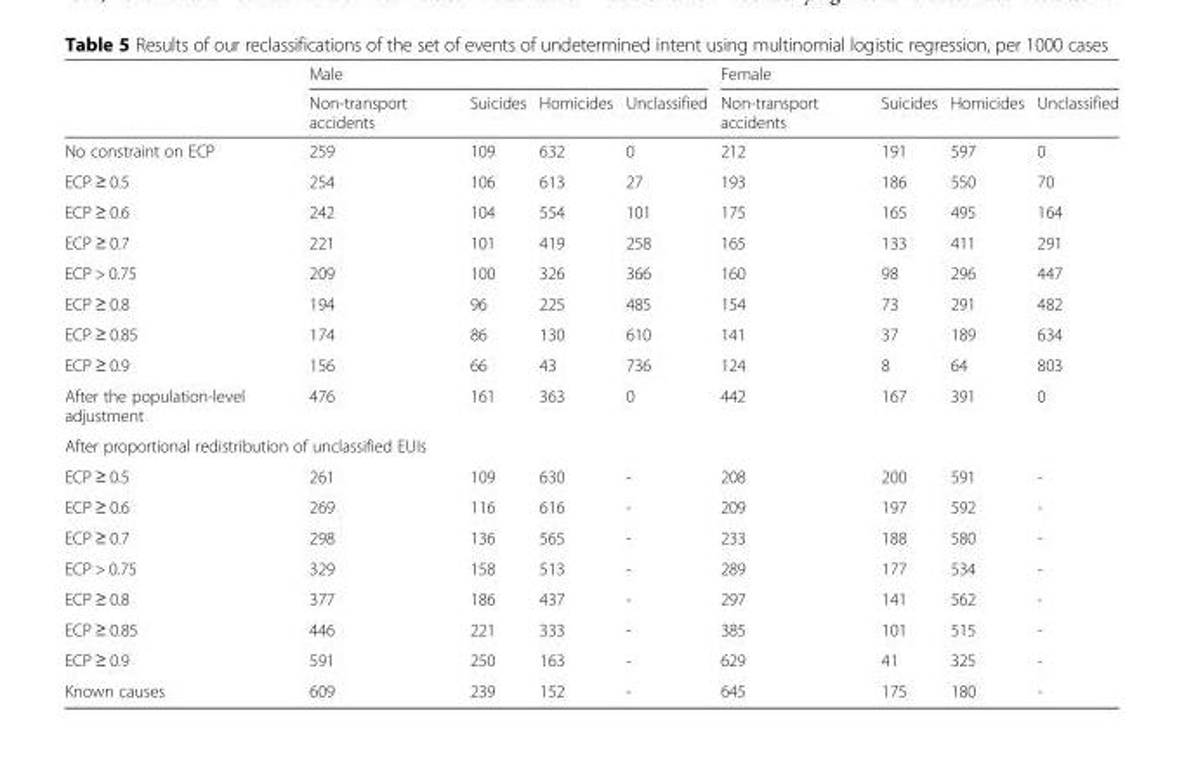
<table><thead><tr><td rowspan="2"></td><td colspan="4">Male</td><td colspan="4">Female</td></tr><tr><td>Non-transport accidents</td><td>Suicides</td><td>Homicides</td><td>Unclassified</td><td>Non-transport accidents</td><td>Suicides</td><td>Homicides</td><td>Unclassified</td></tr></thead><tbody><tr><td>No constraint on ECP</td><td>259</td><td>109</td><td>632</td><td>0</td><td>212</td><td>191</td><td>597</td><td>0</td></tr><tr><td>ECP ≥ 0.5</td><td>254</td><td>106</td><td>613</td><td>27</td><td>193</td><td>186</td><td>550</td><td>70</td></tr><tr><td>ECP ≥ 0.6</td><td>242</td><td>104</td><td>554</td><td>101</td><td>175</td><td>165</td><td>495</td><td>164</td></tr><tr><td>ECP ≥ 0.7</td><td>221</td><td>101</td><td>419</td><td>258</td><td>165</td><td>133</td><td>411</td><td>291</td></tr><tr><td>ECP &gt; 0.75</td><td>209</td><td>100</td><td>326</td><td>366</td><td>160</td><td>98</td><td>296</td><td>447</td></tr><tr><td>ECP ≥ 0.8</td><td>194</td><td>96</td><td>225</td><td>485</td><td>154</td><td>73</td><td>291</td><td>482</td></tr><tr><td>ECP ≥ 0.85</td><td>174</td><td>86</td><td>130</td><td>610</td><td>141</td><td>37</td><td>189</td><td>634</td></tr><tr><td>ECP ≥ 0.9</td><td>156</td><td>66</td><td>43</td><td>736</td><td>124</td><td>8</td><td>64</td><td>803</td></tr><tr><td>After the population-level adjustment</td><td>476</td><td>161</td><td>363</td><td>0</td><td>442</td><td>167</td><td>391</td><td>0</td></tr><tr><td colspan="9">After proportional redistribution of unclassified EUIs</td></tr><tr><td>ECP ≥ 0.5</td><td>261</td><td>109</td><td>630</td><td>-</td><td>208</td><td>200</td><td>591</td><td>-</td></tr><tr><td>ECP ≥ 0.6</td><td>269</td><td>116</td><td>616</td><td>-</td><td>209</td><td>197</td><td>592</td><td>-</td></tr><tr><td>ECP ≥ 0.7</td><td>298</td><td>136</td><td>565</td><td>-</td><td>233</td><td>188</td><td>580</td><td>-</td></tr><tr><td>ECP &gt; 0.75</td><td>329</td><td>158</td><td>513</td><td>-</td><td>289</td><td>177</td><td>534</td><td>-</td></tr><tr><td>ECP ≥ 0.8</td><td>377</td><td>186</td><td>437</td><td>-</td><td>297</td><td>141</td><td>562</td><td>-</td></tr><tr><td>ECP ≥ 0.85</td><td>446</td><td>221</td><td>333</td><td>-</td><td>385</td><td>101</td><td>515</td><td>-</td></tr><tr><td>ECP ≥ 0.9</td><td>591</td><td>250</td><td>163</td><td>-</td><td>629</td><td>41</td><td>325</td><td>-</td></tr><tr><td>Known causes</td><td>609</td><td>239</td><td>152</td><td>-</td><td>645</td><td>175</td><td>180</td><td>-</td></tr></tbody></table>